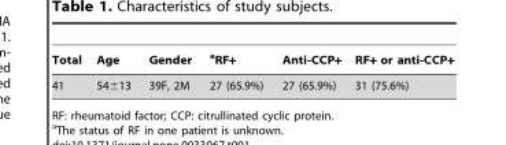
<table><thead><tr><td>Total</td><td>Age</td><td>Gender</td><td>aRF+</td><td>Anti-CCP+</td><td>RF+ or anti-CCP+</td></tr></thead><tbody><tr><td>41</td><td>54±13</td><td>39F, 2M</td><td>27 (65.9%)</td><td>27 (65.9%)</td><td>31 (75.6%)</td></tr></tbody></table>